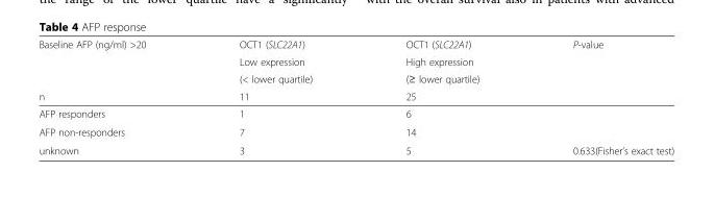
<table><thead><tr><td rowspan="4">Baseline AFP (ng/ml) &gt;20 n</td><td rowspan="4">OCT1 (SLC22A1) Low expression (&lt; lower quartile) 11</td><td rowspan="4">OCT1 (SLC22A1) High expression (≥ lower quartile) 25</td><td rowspan="4">P-value</td></tr><tr></tr><tr></tr><tr></tr></thead><tbody><tr><td>AFP responders</td><td>1</td><td>6</td><td></td></tr><tr><td>AFP non-responders</td><td>7</td><td>14</td><td></td></tr><tr><td>unknown</td><td>3</td><td>5</td><td>0.633(Fisher’s exact test)</td></tr></tbody></table>